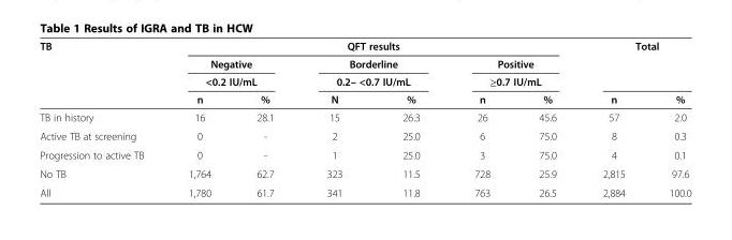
<table><thead><tr><td rowspan="4">TB</td><td colspan="6">QFT results</td><td rowspan="3" colspan="2">Total</td></tr><tr><td rowspan="2" colspan="2">Negative &lt;0.2 IU/mL</td><td rowspan="2" colspan="2">Borderline 0.2– &lt;0.7 IU/mL</td><td rowspan="2" colspan="2">Positive ≥0.7 IU/mL</td></tr><tr></tr><tr><td>n</td><td>%</td><td>N</td><td>%</td><td>n</td><td>%</td><td>n</td><td>%</td></tr></thead><tbody><tr><td>TB in history</td><td>16</td><td>28.1</td><td>15</td><td>26.3</td><td>26</td><td>45.6</td><td>57</td><td>2.0</td></tr><tr><td>Active TB at screening</td><td>0</td><td>-</td><td>2</td><td>25.0</td><td>6</td><td>75.0</td><td>8</td><td>0.3</td></tr><tr><td>Progression to active TB</td><td>0</td><td>-</td><td>1</td><td>25.0</td><td>3</td><td>75.0</td><td>4</td><td>0.1</td></tr><tr><td>No TB</td><td>1,764</td><td>62.7</td><td>323</td><td>11.5</td><td>728</td><td>25.9</td><td>2,815</td><td>97.6</td></tr><tr><td>All</td><td>1,780</td><td>61.7</td><td>341</td><td>11.8</td><td>763</td><td>26.5</td><td>2,884</td><td>100.0</td></tr></tbody></table>